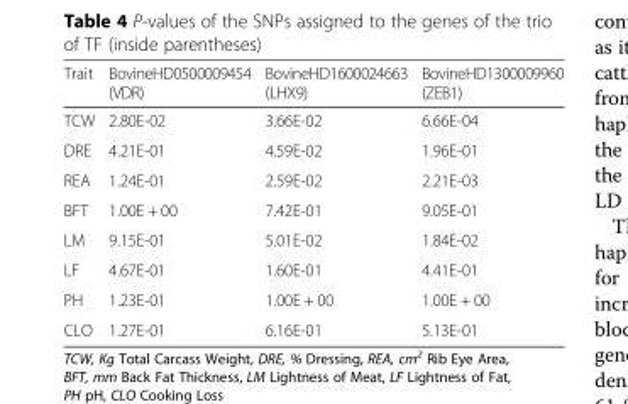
<table><thead><tr><td>Trait</td><td>BovineHD0500009454 (VDR)</td><td>BovineHD1600024663 (LHX9)</td><td>BovineHD1300009960 (ZEB1)</td></tr></thead><tbody><tr><td>TCW</td><td>2.80E-02</td><td>3.66E-02</td><td>6.66E-04</td></tr><tr><td>DRE</td><td>4.21E-01</td><td>4.59E-02</td><td>1.96E-01</td></tr><tr><td>REA</td><td>1.24E-01</td><td>2.59E-02</td><td>2.21E-03</td></tr><tr><td>BFT</td><td>1.00E + 00</td><td>7.42E-01</td><td>9.05E-01</td></tr><tr><td>LM</td><td>9.15E-01</td><td>5.01E-02</td><td>1.84E-02</td></tr><tr><td>LF</td><td>4.67E-01</td><td>1.60E-01</td><td>4.41E-01</td></tr><tr><td>PH</td><td>1.23E-01</td><td>1.00E + 00</td><td>1.00E + 00</td></tr><tr><td>CLO</td><td>1.27E-01</td><td>6.16E-01</td><td>5.13E-01</td></tr></tbody></table>